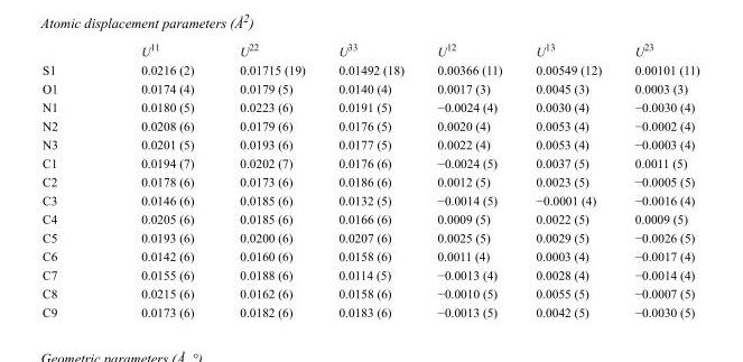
<table><thead><tr><td></td><td>U<sup>11</sup></td><td>U<sup>22</sup></td><td>U<sup>33</sup></td><td>U<sup>12</sup></td><td>U<sup>13</sup></td><td>U<sup>23</sup></td></tr></thead><tbody><tr><td>S1</td><td>0.0216 (2)</td><td>0.01715 (19)</td><td>0.01492 (18)</td><td>0.00366 (11)</td><td>0.00549 (12)</td><td>0.00101 (11)</td></tr><tr><td>O1</td><td>0.0174 (4)</td><td>0.0179 (5)</td><td>0.0140 (4)</td><td>0.0017 (3)</td><td>0.0045 (3)</td><td>0.0003 (3)</td></tr><tr><td>N1</td><td>0.0180 (5)</td><td>0.0223 (6)</td><td>0.0191 (5)</td><td>−0.0024 (4)</td><td>0.0030 (4)</td><td>−0.0030 (4)</td></tr><tr><td>N2</td><td>0.0208 (6)</td><td>0.0179 (6)</td><td>0.0176 (5)</td><td>0.0020 (4)</td><td>0.0053 (4)</td><td>−0.0002 (4)</td></tr><tr><td>N3</td><td>0.0201 (5)</td><td>0.0193 (6)</td><td>0.0177 (5)</td><td>0.0022 (4)</td><td>0.0053 (4)</td><td>−0.0003 (4)</td></tr><tr><td>C1</td><td>0.0194 (7)</td><td>0.0202 (7)</td><td>0.0176 (6)</td><td>−0.0024 (5)</td><td>0.0037 (5)</td><td>0.0011 (5)</td></tr><tr><td>C2</td><td>0.0178 (6)</td><td>0.0173 (6)</td><td>0.0186 (6)</td><td>0.0012 (5)</td><td>0.0023 (5)</td><td>−0.0005 (5)</td></tr><tr><td>C3</td><td>0.0146 (6)</td><td>0.0185 (6)</td><td>0.0132 (5)</td><td>−0.0014 (5)</td><td>−0.0001 (4)</td><td>−0.0016 (4)</td></tr><tr><td>C4</td><td>0.0205 (6)</td><td>0.0185 (6)</td><td>0.0166 (6)</td><td>0.0009 (5)</td><td>0.0022 (5)</td><td>0.0009 (5)</td></tr><tr><td>C5</td><td>0.0193 (6)</td><td>0.0200 (6)</td><td>0.0207 (6)</td><td>0.0025 (5)</td><td>0.0029 (5)</td><td>−0.0026 (5)</td></tr><tr><td>C6</td><td>0.0142 (6)</td><td>0.0160 (6)</td><td>0.0158 (6)</td><td>0.0011 (4)</td><td>0.0003 (4)</td><td>−0.0017 (4)</td></tr><tr><td>C7</td><td>0.0155 (6)</td><td>0.0188 (6)</td><td>0.0114 (5)</td><td>−0.0013 (4)</td><td>0.0028 (4)</td><td>−0.0014 (4)</td></tr><tr><td>C8</td><td>0.0215 (6)</td><td>0.0162 (6)</td><td>0.0158 (6)</td><td>−0.0010 (5)</td><td>0.0055 (5)</td><td>−0.0007 (5)</td></tr><tr><td>C9</td><td>0.0173 (6)</td><td>0.0182 (6)</td><td>0.0183 (6)</td><td>−0.0013 (5)</td><td>0.0042 (5)</td><td>−0.0030 (5)</td></tr></tbody></table>